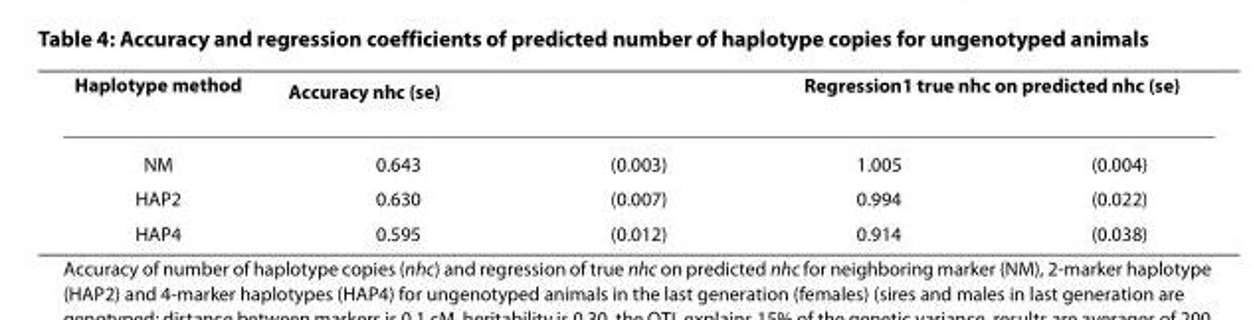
<table><thead><tr><td rowspan="2">Haplotype method NM</td><td colspan="2">Accuracy nhc (se)</td><td colspan="2">Regression<sup>1</sup> true nhc on predicted nhc (se)</td></tr><tr><td>0.643</td><td>(0.003)</td><td>1.005</td><td>(0.004)</td></tr></thead><tbody><tr><td>HAP2</td><td>0.630</td><td>(0.007)</td><td>0.994</td><td>(0.022)</td></tr><tr><td>HAP4</td><td>0.595</td><td>(0.012)</td><td>0.914</td><td>(0.038)</td></tr></tbody></table>